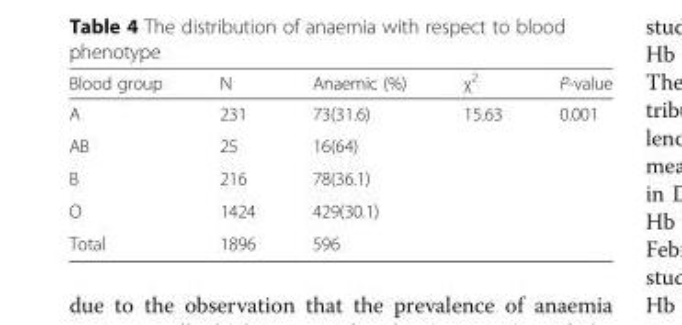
<table><thead><tr><td>Blood group</td><td>N</td><td>Anaemic (%)</td><td>χ<sup>2</sup></td><td>P-value</td></tr></thead><tbody><tr><td>A</td><td>231</td><td>73(31.6)</td><td rowspan="4">15.63</td><td rowspan="4">0.001</td></tr><tr><td>AB</td><td>25</td><td>16(64)</td></tr><tr><td>B</td><td>216</td><td>78(36.1)</td></tr><tr><td>O</td><td>1424</td><td>429(30.1)</td></tr><tr><td>Total</td><td>1896</td><td>596</td><td></td><td></td></tr></tbody></table>